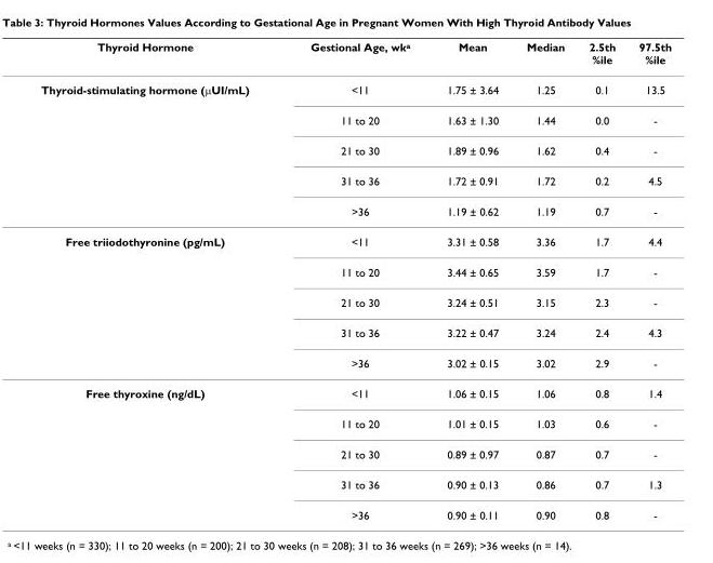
<table><thead><tr><td>Thyroid Hormone</td><td>Gestional Age, wk<sup>a</sup></td><td>Mean</td><td>Median</td><td>2.5th %ile</td><td>97.5th %ile</td></tr></thead><tbody><tr><td rowspan="5">Thyroid-stimulating hormone (μUI/mL)</td><td>&lt;11</td><td>1.75 ± 3.64</td><td>1.25</td><td>0.1</td><td>13.5</td></tr><tr><td>11 to 20</td><td>1.63 ± 1.30</td><td>1.44</td><td>0.0</td><td>-</td></tr><tr><td>21 to 30</td><td>1.89 ± 0.96</td><td>1.62</td><td>0.4</td><td>-</td></tr><tr><td>31 to 36</td><td>1.72 ± 0.91</td><td>1.72</td><td>0.2</td><td>4.5</td></tr><tr><td>&gt;36</td><td>1.19 ± 0.62</td><td>1.19</td><td>0.7</td><td>-</td></tr><tr><td rowspan="5">Free triiodothyronine (pg/mL)</td><td>&lt;11</td><td>3.31 ± 0.58</td><td>3.36</td><td>1.7</td><td>4.4</td></tr><tr><td>11 to 20</td><td>3.44 ± 0.65</td><td>3.59</td><td>1.7</td><td>-</td></tr><tr><td>21 to 30</td><td>3.24 ± 0.51</td><td>3.15</td><td>2.3</td><td>-</td></tr><tr><td>31 to 36</td><td>3.22 ± 0.47</td><td>3.24</td><td>2.4</td><td>4.3</td></tr><tr><td>&gt;36</td><td>3.02 ± 0.15</td><td>3.02</td><td>2.9</td><td>-</td></tr><tr><td rowspan="5">Free thyroxine (ng/dL)</td><td>&lt;11</td><td>1.06 ± 0.15</td><td>1.06</td><td>0.8</td><td>1.4</td></tr><tr><td>11 to 20</td><td>1.01 ± 0.15</td><td>1.03</td><td>0.6</td><td>-</td></tr><tr><td>21 to 30</td><td>0.89 ± 0.97</td><td>0.87</td><td>0.7</td><td>-</td></tr><tr><td>31 to 36</td><td>0.90 ± 0.13</td><td>0.86</td><td>0.7</td><td>1.3</td></tr><tr><td>&gt;36</td><td>0.90 ± 0.11</td><td>0.90</td><td>0.8</td><td>-</td></tr></tbody></table>